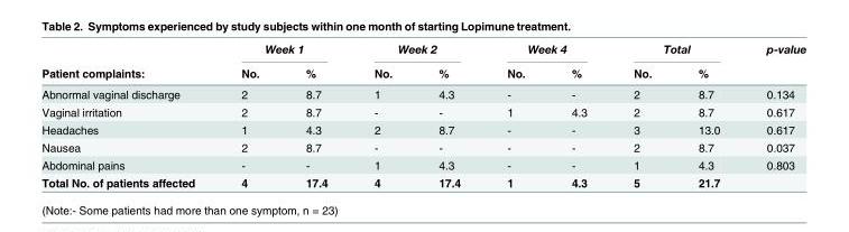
<table><thead><tr><td rowspan="2">Patient complaints:</td><td colspan="2">Week 1</td><td colspan="2">Week 2</td><td colspan="2">Week 4</td><td colspan="2">Total</td><td rowspan="2">p-value</td></tr><tr><td>No.</td><td>%</td><td>No.</td><td>%</td><td>No.</td><td>%</td><td>No.</td><td>%</td></tr></thead><tbody><tr><td>Abnormal vaginal discharge</td><td>2</td><td>8.7</td><td>1</td><td>4.3</td><td>-</td><td>-</td><td>2</td><td>8.7</td><td>0.134</td></tr><tr><td>Vaginal irritation</td><td>2</td><td>8.7</td><td>-</td><td>-</td><td>1</td><td>4.3</td><td>2</td><td>8.7</td><td>0.617</td></tr><tr><td>Headaches</td><td>1</td><td>4.3</td><td>2</td><td>8.7</td><td>-</td><td>-</td><td>3</td><td>13.0</td><td>0.617</td></tr><tr><td>Nausea</td><td>2</td><td>8.7</td><td>-</td><td>-</td><td>-</td><td>-</td><td>2</td><td>8.7</td><td>0.037</td></tr><tr><td>Abdominal pains</td><td>-</td><td>-</td><td>1</td><td>4.3</td><td>-</td><td>-</td><td>1</td><td>4.3</td><td>0.803</td></tr><tr><td>Total No. of patients affected</td><td>4</td><td>17.4</td><td>4</td><td>17.4</td><td>1</td><td>4.3</td><td>5</td><td>21.7</td><td></td></tr></tbody></table>